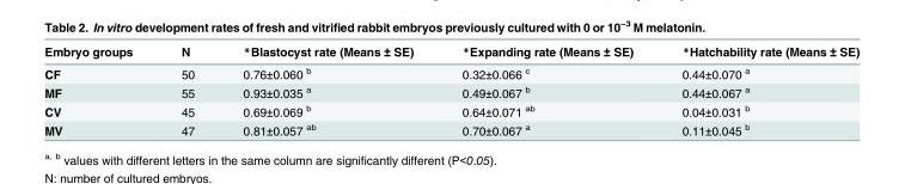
<table><thead><tr><td>Embryo groups</td><td>N</td><td>*Blastocyst rate (Means ± SE)</td><td>*Expanding rate (Means ± SE)</td><td>*Hatchability rate (Means ± SE)</td></tr></thead><tbody><tr><td>CF</td><td>50</td><td>0.76±0.060 <sup>b</sup></td><td>0.32±0.066 <sup>c</sup></td><td>0.44±0.070 <sup>a</sup></td></tr><tr><td>MF</td><td>55</td><td>0.93±0.035 <sup>a</sup></td><td>0.49±0.067 <sup>b</sup></td><td>0.44±0.067 <sup>a</sup></td></tr><tr><td>CV</td><td>45</td><td>0.69±0.069 <sup>b</sup></td><td>0.64±0.071 <sup>ab</sup></td><td>0.04±0.031 <sup>b</sup></td></tr><tr><td>MV</td><td>47</td><td>0.81±0.057 <sup>ab</sup></td><td>0.70±0.067 <sup>a</sup></td><td>0.11±0.045 <sup>b</sup></td></tr></tbody></table>